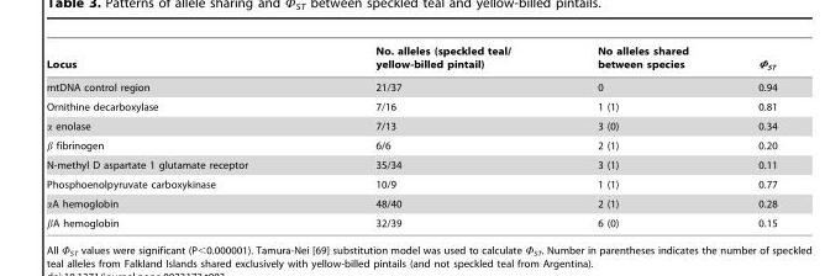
<table><thead><tr><td>Locus</td><td>No. alleles (speckled teal/ yellow-billed pintail)</td><td>No alleles shared between species</td><td>Φ<sub>ST</sub></td></tr></thead><tbody><tr><td>mtDNA control region</td><td>21/37</td><td>0</td><td>0.94</td></tr><tr><td>Ornithine decarboxylase</td><td>7/16</td><td>1 (1)</td><td>0.81</td></tr><tr><td>α enolase</td><td>7/13</td><td>3 (0)</td><td>0.34</td></tr><tr><td>β fibrinogen</td><td>6/6</td><td>2 (1)</td><td>0.20</td></tr><tr><td>N-methyl D aspartate 1 glutamate receptor</td><td>35/34</td><td>3 (1)</td><td>0.11</td></tr><tr><td>Phosphoenolpyruvate carboxykinase</td><td>10/9</td><td>1 (1)</td><td>0.77</td></tr><tr><td>αA hemoglobin</td><td>48/40</td><td>2 (1)</td><td>0.28</td></tr><tr><td>βA hemoglobin</td><td>32/39</td><td>6 (0)</td><td>0.15</td></tr></tbody></table>